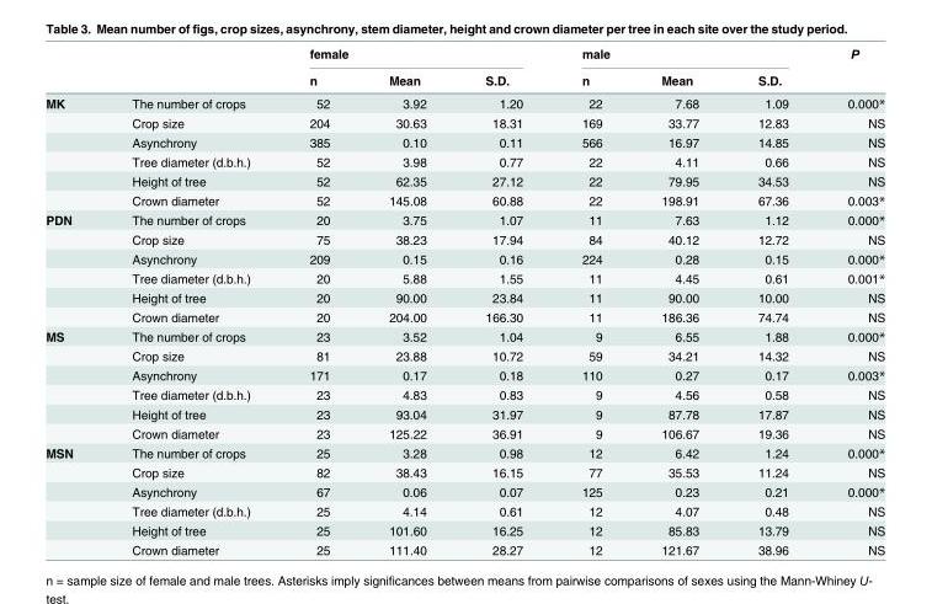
<table><thead><tr><td rowspan="2"></td><td rowspan="2"></td><td colspan="3">female</td><td colspan="3">male</td><td rowspan="2">P</td></tr><tr><td>n</td><td>Mean</td><td>S.D.</td><td>n</td><td>Mean</td><td>S.D.</td></tr></thead><tbody><tr><td rowspan="6">MK</td><td>The number of crops</td><td>52</td><td>3.92</td><td>1.20</td><td>22</td><td>7.68</td><td>1.09</td><td>0.000*</td></tr><tr><td>Crop size</td><td>204</td><td>30.63</td><td>18.31</td><td>169</td><td>33.77</td><td>12.83</td><td>NS</td></tr><tr><td>Asynchrony</td><td>385</td><td>0.10</td><td>0.11</td><td>566</td><td>16.97</td><td>14.85</td><td>NS</td></tr><tr><td>Tree diameter (d.b.h.)</td><td>52</td><td>3.98</td><td>0.77</td><td>22</td><td>4.11</td><td>0.66</td><td>NS</td></tr><tr><td>Height of tree</td><td>52</td><td>62.35</td><td>27.12</td><td>22</td><td>79.95</td><td>34.53</td><td>NS</td></tr><tr><td>Crown diameter</td><td>52</td><td>145.08</td><td>60.88</td><td>22</td><td>198.91</td><td>67.36</td><td>0.003*</td></tr><tr><td rowspan="6">PDN</td><td>The number of crops</td><td>20</td><td>3.75</td><td>1.07</td><td>11</td><td>7.63</td><td>1.12</td><td>0.000*</td></tr><tr><td>Crop size</td><td>75</td><td>38.23</td><td>17.94</td><td>84</td><td>40.12</td><td>12.72</td><td>NS</td></tr><tr><td>Asynchrony</td><td>209</td><td>0.15</td><td>0.16</td><td>224</td><td>0.28</td><td>0.15</td><td>0.000*</td></tr><tr><td>Tree diameter (d.b.h.)</td><td>20</td><td>5.88</td><td>1.55</td><td>11</td><td>4.45</td><td>0.61</td><td>0.001*</td></tr><tr><td>Height of tree</td><td>20</td><td>90.00</td><td>23.84</td><td>11</td><td>90.00</td><td>10.00</td><td>NS</td></tr><tr><td>Crown diameter</td><td>20</td><td>204.00</td><td>166.30</td><td>11</td><td>186.36</td><td>74.74</td><td>NS</td></tr><tr><td rowspan="6">MS</td><td>The number of crops</td><td>23</td><td>3.52</td><td>1.04</td><td>9</td><td>6.55</td><td>1.88</td><td>0.000*</td></tr><tr><td>Crop size</td><td>81</td><td>23.88</td><td>10.72</td><td>59</td><td>34.21</td><td>14.32</td><td>NS</td></tr><tr><td>Asynchrony</td><td>171</td><td>0.17</td><td>0.18</td><td>110</td><td>0.27</td><td>0.17</td><td>0.003*</td></tr><tr><td>Tree diameter (d.b.h.)</td><td>23</td><td>4.83</td><td>0.83</td><td>9</td><td>4.56</td><td>0.58</td><td>NS</td></tr><tr><td>Height of tree</td><td>23</td><td>93.04</td><td>31.97</td><td>9</td><td>87.78</td><td>17.87</td><td>NS</td></tr><tr><td>Crown diameter</td><td>23</td><td>125.22</td><td>36.91</td><td>9</td><td>106.67</td><td>19.36</td><td>NS</td></tr><tr><td rowspan="6">MSN</td><td>The number of crops</td><td>25</td><td>3.28</td><td>0.98</td><td>12</td><td>6.42</td><td>1.24</td><td>0.000*</td></tr><tr><td>Crop size</td><td>82</td><td>38.43</td><td>16.15</td><td>77</td><td>35.53</td><td>11.24</td><td>NS</td></tr><tr><td>Asynchrony</td><td>67</td><td>0.06</td><td>0.07</td><td>125</td><td>0.23</td><td>0.21</td><td>0.000*</td></tr><tr><td>Tree diameter (d.b.h.)</td><td>25</td><td>4.14</td><td>0.61</td><td>12</td><td>4.07</td><td>0.48</td><td>NS</td></tr><tr><td>Height of tree</td><td>25</td><td>101.60</td><td>16.25</td><td>12</td><td>85.83</td><td>13.79</td><td>NS</td></tr><tr><td>Crown diameter</td><td>25</td><td>111.40</td><td>28.27</td><td>12</td><td>121.67</td><td>38.96</td><td>NS</td></tr></tbody></table>